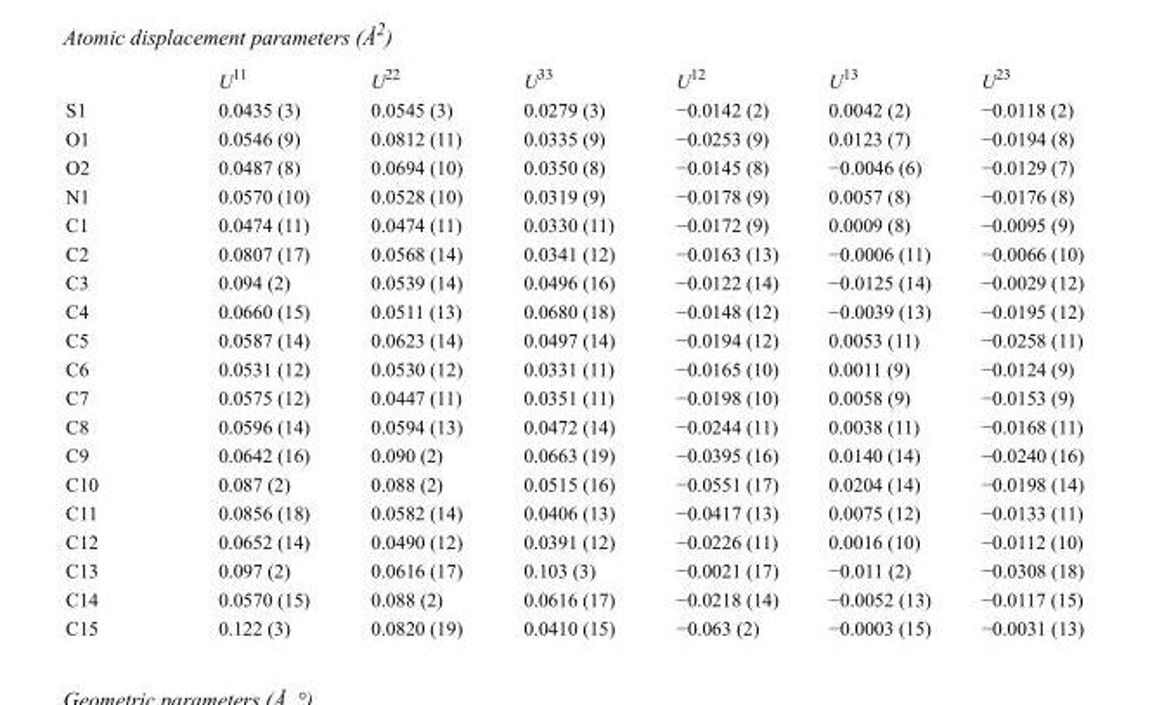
<table><thead><tr><td></td><td>U<sup>11</sup></td><td>U<sup>22</sup></td><td>U<sup>33</sup></td><td>U<sup>12</sup></td><td>U<sup>13</sup></td><td>U<sup>23</sup></td></tr></thead><tbody><tr><td>S1</td><td>0.0435 (3)</td><td>0.0545 (3)</td><td>0.0279 (3)</td><td>−0.0142 (2)</td><td>0.0042 (2)</td><td>−0.0118 (2)</td></tr><tr><td>O1</td><td>0.0546 (9)</td><td>0.0812 (11)</td><td>0.0335 (9)</td><td>−0.0253 (9)</td><td>0.0123 (7)</td><td>−0.0194 (8)</td></tr><tr><td>O2</td><td>0.0487 (8)</td><td>0.0694 (10)</td><td>0.0350 (8)</td><td>−0.0145 (8)</td><td>−0.0046 (6)</td><td>−0.0129 (7)</td></tr><tr><td>N1</td><td>0.0570 (10)</td><td>0.0528 (10)</td><td>0.0319 (9)</td><td>−0.0178 (9)</td><td>0.0057 (8)</td><td>−0.0176 (8)</td></tr><tr><td>C1</td><td>0.0474 (11)</td><td>0.0474 (11)</td><td>0.0330 (11)</td><td>−0.0172 (9)</td><td>0.0009 (8)</td><td>−0.0095 (9)</td></tr><tr><td>C2</td><td>0.0807 (17)</td><td>0.0568 (14)</td><td>0.0341 (12)</td><td>−0.0163 (13)</td><td>−0.0006 (11)</td><td>−0.0066 (10)</td></tr><tr><td>C3</td><td>0.094 (2)</td><td>0.0539 (14)</td><td>0.0496 (16)</td><td>−0.0122 (14)</td><td>−0.0125 (14)</td><td>−0.0029 (12)</td></tr><tr><td>C4</td><td>0.0660 (15)</td><td>0.0511 (13)</td><td>0.0680 (18)</td><td>−0.0148 (12)</td><td>−0.0039 (13)</td><td>−0.0195 (12)</td></tr><tr><td>C5</td><td>0.0587 (14)</td><td>0.0623 (14)</td><td>0.0497 (14)</td><td>−0.0194 (12)</td><td>0.0053 (11)</td><td>−0.0258 (11)</td></tr><tr><td>C6</td><td>0.0531 (12)</td><td>0.0530 (12)</td><td>0.0331 (11)</td><td>−0.0165 (10)</td><td>0.0011 (9)</td><td>−0.0124 (9)</td></tr><tr><td>C7</td><td>0.0575 (12)</td><td>0.0447 (11)</td><td>0.0351 (11)</td><td>−0.0198 (10)</td><td>0.0058 (9)</td><td>−0.0153 (9)</td></tr><tr><td>C8</td><td>0.0596 (14)</td><td>0.0594 (13)</td><td>0.0472 (14)</td><td>−0.0244 (11)</td><td>0.0038 (11)</td><td>−0.0168 (11)</td></tr><tr><td>C9</td><td>0.0642 (16)</td><td>0.090 (2)</td><td>0.0663 (19)</td><td>−0.0395 (16)</td><td>0.0140 (14)</td><td>−0.0240 (16)</td></tr><tr><td>C10</td><td>0.087 (2)</td><td>0.088 (2)</td><td>0.0515 (16)</td><td>−0.0551 (17)</td><td>0.0204 (14)</td><td>−0.0198 (14)</td></tr><tr><td>C11</td><td>0.0856 (18)</td><td>0.0582 (14)</td><td>0.0406 (13)</td><td>−0.0417 (13)</td><td>0.0075 (12)</td><td>−0.0133 (11)</td></tr><tr><td>C12</td><td>0.0652 (14)</td><td>0.0490 (12)</td><td>0.0391 (12)</td><td>−0.0226 (11)</td><td>0.0016 (10)</td><td>−0.0112 (10)</td></tr><tr><td>C13</td><td>0.097 (2)</td><td>0.0616 (17)</td><td>0.103 (3)</td><td>−0.0021 (17)</td><td>−0.011 (2)</td><td>−0.0308 (18)</td></tr><tr><td>C14</td><td>0.0570 (15)</td><td>0.088 (2)</td><td>0.0616 (17)</td><td>−0.0218 (14)</td><td>−0.0052 (13)</td><td>−0.0117 (15)</td></tr><tr><td>C15</td><td>0.122 (3)</td><td>0.0820 (19)</td><td>0.0410 (15)</td><td>−0.063 (2)</td><td>−0.0003 (15)</td><td>−0.0031 (13)</td></tr></tbody></table>